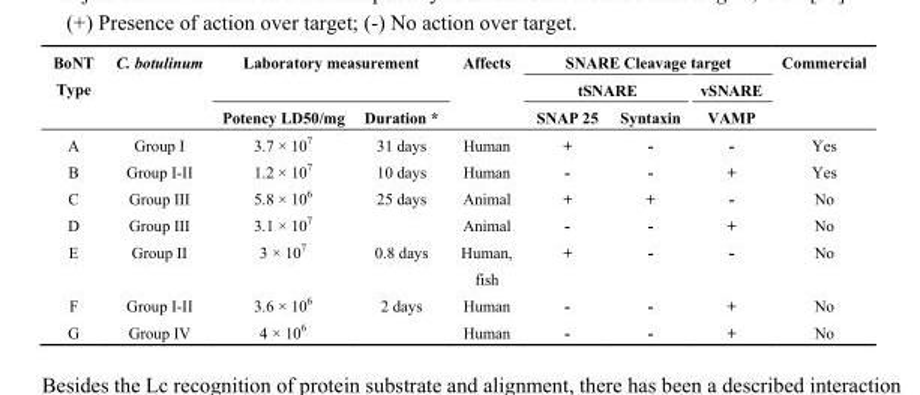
<table><thead><tr><td rowspan="3">BoNT Type</td><td rowspan="3">C. botulinum</td><td rowspan="2" colspan="2">Laboratory measurement</td><td rowspan="3">Affects</td><td colspan="3">SNARE Cleavage target</td><td rowspan="3">Commercial</td></tr><tr><td colspan="2">tSNARE</td><td rowspan="2">vSNARE VAMP</td></tr><tr><td>Potency LD50/mg</td><td>Duration *</td><td>SNAP 25</td><td>Syntaxin</td></tr></thead><tbody><tr><td>A</td><td>Group I</td><td>3.7 × 10<sup>7</sup></td><td>31 days</td><td>Human</td><td>+</td><td>-</td><td>-</td><td>Yes</td></tr><tr><td>B</td><td>Group I-II</td><td>1.2 × 10<sup>7</sup></td><td>10 days</td><td>Human</td><td>-</td><td>-</td><td>+</td><td>Yes</td></tr><tr><td>C</td><td>Group III</td><td>5.8 × 10<sup>6</sup></td><td>25 days</td><td>Animal</td><td>+</td><td>+</td><td>-</td><td>No</td></tr><tr><td>D</td><td>Group III</td><td>3.1 × 10<sup>7</sup></td><td></td><td>Animal</td><td>-</td><td>-</td><td>+</td><td>No</td></tr><tr><td>E</td><td>Group II</td><td>3 × 10<sup>7</sup></td><td>0.8 days</td><td>Human, fish</td><td>+</td><td>-</td><td>-</td><td>No</td></tr><tr><td>F</td><td>Group I-II</td><td>3.6 × 10<sup>6</sup></td><td>2 days</td><td>Human</td><td>-</td><td>-</td><td>+</td><td>No</td></tr><tr><td>G</td><td>Group IV</td><td>4 × 10<sup>6</sup></td><td></td><td>Human</td><td>-</td><td>-</td><td>+</td><td>No</td></tr></tbody></table>